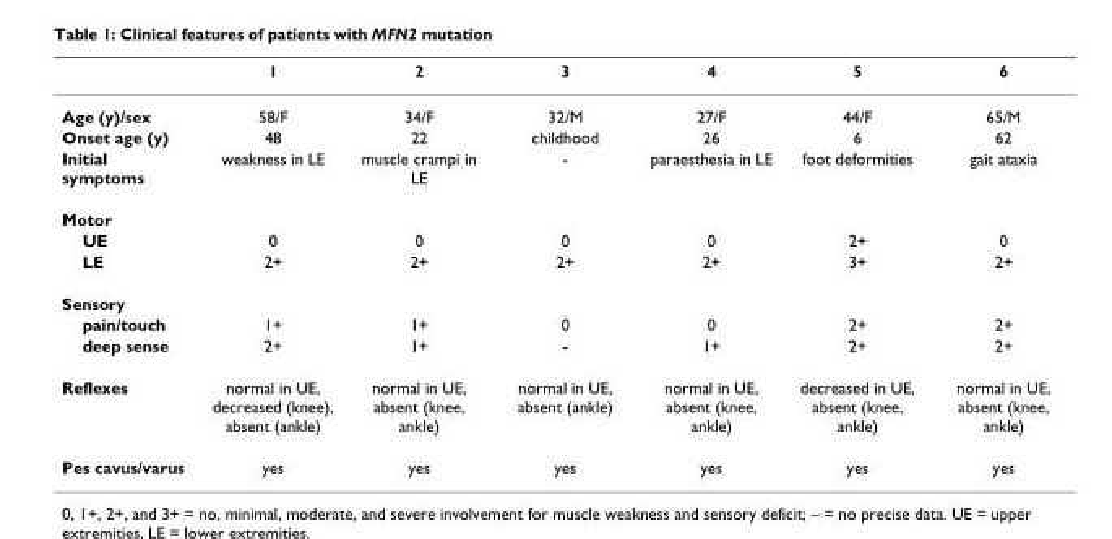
<table><thead><tr><td></td><td>1</td><td>2</td><td>3</td><td>4</td><td>5</td><td>6</td></tr></thead><tbody><tr><td>Age (y)/sex</td><td>58/F</td><td>34/F</td><td>32/M</td><td>27/F</td><td>44/F</td><td>65/M</td></tr><tr><td>Onset age (y)</td><td>48</td><td>22</td><td>childhood</td><td>26</td><td>6</td><td>62</td></tr><tr><td>Initial symptoms</td><td>weakness in LE</td><td>muscle crampi in LE</td><td>-</td><td>paraesthesia in LE</td><td>foot deformities</td><td>gait ataxia</td></tr><tr><td colspan="7">Motor</td></tr><tr><td>UE</td><td>0</td><td>0</td><td>0</td><td>0</td><td>2+</td><td>0</td></tr><tr><td>LE</td><td>2+</td><td>2+</td><td>2+</td><td>2+</td><td>3+</td><td>2+</td></tr><tr><td colspan="7">Sensory</td></tr><tr><td>pain/touch</td><td>1+</td><td>1+</td><td>0</td><td>0</td><td>2+</td><td>2+</td></tr><tr><td>deep sense</td><td>2+</td><td>1+</td><td>-</td><td>1+</td><td>2+</td><td>2+</td></tr><tr><td>Reflexes</td><td>normal in UE, decreased (knee), absent (ankle)</td><td>normal in UE, absent (knee, ankle)</td><td>normal in UE, absent (ankle)</td><td>normal in UE, absent (knee, ankle)</td><td>decreased in UE, absent (knee, ankle)</td><td>normal in UE, absent (knee, ankle)</td></tr><tr><td>Pes cavus/varus</td><td>yes</td><td>yes</td><td>yes</td><td>yes</td><td>yes</td><td>yes</td></tr></tbody></table>